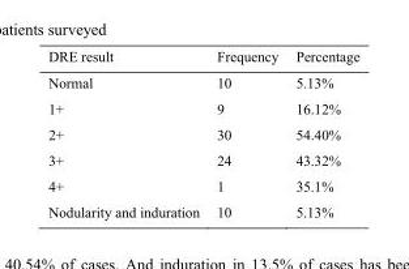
<table><thead><tr><td>DRE result</td><td>Frequency</td><td>Percentage</td></tr></thead><tbody><tr><td>Normal</td><td>10</td><td>5.13%</td></tr><tr><td>1+</td><td>9</td><td>16.12%</td></tr><tr><td>2+</td><td>30</td><td>54.40%</td></tr><tr><td>3+</td><td>24</td><td>43.32%</td></tr><tr><td>4+</td><td>1</td><td>35.1%</td></tr><tr><td>Nodularity and induration</td><td>10</td><td>5.13%</td></tr></tbody></table>